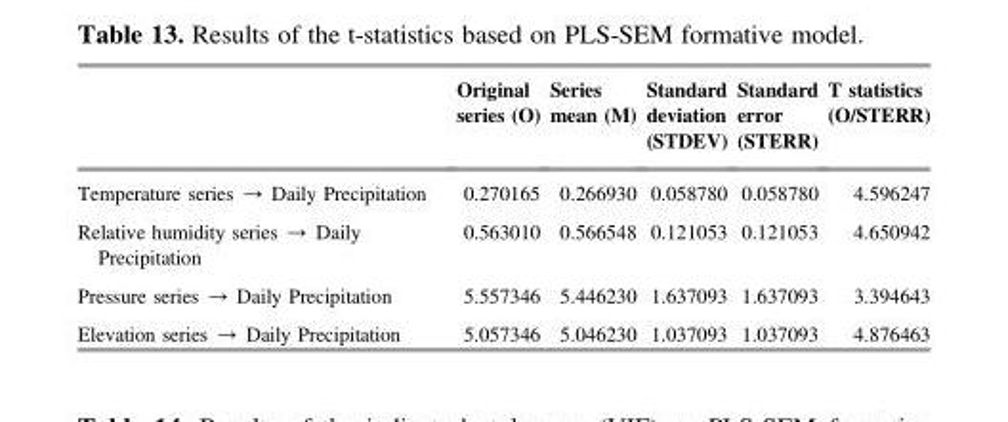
<table><thead><tr><td></td><td>Original series (O)</td><td>Series mean (M)</td><td>Standard deviation (STDEV)</td><td>Standard error (STERR)</td><td>T statistics (O/STERR)</td></tr></thead><tbody><tr><td>Temperature series → Daily Precipitation</td><td>0.270165</td><td>0.266930</td><td>0.058780</td><td>0.058780</td><td>4.596247</td></tr><tr><td>Relative humidity series → Daily Precipitation</td><td>0.563010</td><td>0.566548</td><td>0.121053</td><td>0.121053</td><td>4.650942</td></tr><tr><td>Pressure series → Daily Precipitation</td><td>5.557346</td><td>5.446230</td><td>1.637093</td><td>1.637093</td><td>3.394643</td></tr><tr><td>Elevation series → Daily Precipitation</td><td>5.057346</td><td>5.046230</td><td>1.037093</td><td>1.037093</td><td>4.876463</td></tr></tbody></table>